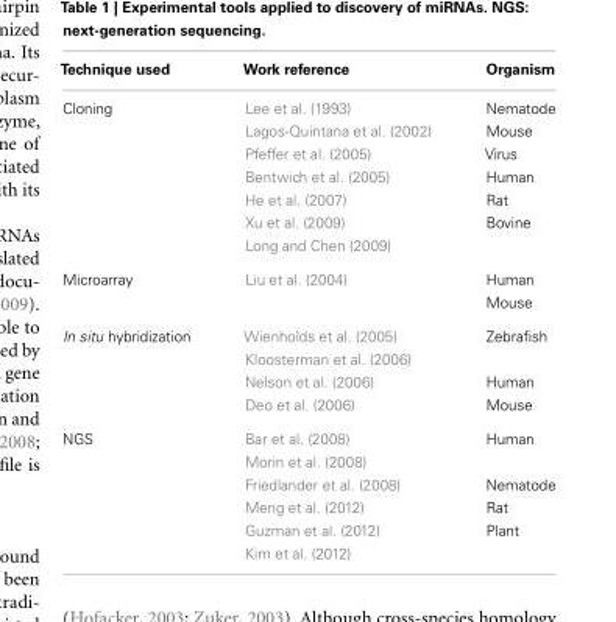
<table><thead><tr><td>Technique used</td><td>Work reference</td><td>Organism</td></tr></thead><tbody><tr><td rowspan="7">Cloning</td><td>Lee et al. (1993)</td><td>Nematode</td></tr><tr><td>Lagos-Quintana et al. (2002)</td><td>Mouse</td></tr><tr><td>Pfeffer et al. (2005)</td><td>Virus</td></tr><tr><td>Bentwich et al. (2005)</td><td>Human</td></tr><tr><td>He et al. (2007)</td><td>Rat</td></tr><tr><td>Xu et al. (2009)</td><td>Bovine</td></tr><tr><td>Long and Chen (2009)</td><td></td></tr><tr><td rowspan="2">Microarray</td><td>Liu et al. (2004)</td><td>Human</td></tr><tr><td></td><td>Mouse</td></tr><tr><td rowspan="4">In situ hybridization</td><td>Wienholds et al. (2005)</td><td>Zebrafish</td></tr><tr><td>Kloosterman et al. (2006)</td><td></td></tr><tr><td>Nelson et al. (2006)</td><td>Human</td></tr><tr><td>Deo et al. (2006)</td><td>Mouse</td></tr><tr><td rowspan="6">NGS</td><td>Bar et al. (2008)</td><td>Human</td></tr><tr><td>Morin et al. (2008)</td><td></td></tr><tr><td>Friedlander et al. (2008)</td><td>Nematode</td></tr><tr><td>Meng et al. (2012)</td><td>Rat</td></tr><tr><td>Guzman et al. (2012)</td><td>Plant</td></tr><tr><td>Kim et al. (2012)</td><td></td></tr></tbody></table>